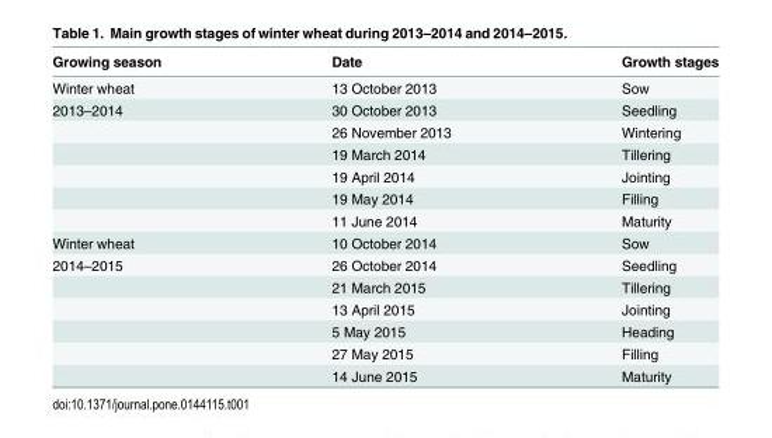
<table><thead><tr><td>Growing season</td><td>Date</td><td>Growth stages</td></tr></thead><tbody><tr><td>Winter wheat</td><td>13 October 2013</td><td>Sow</td></tr><tr><td rowspan="6">2013–2014</td><td>30 October 2013</td><td>Seedling</td></tr><tr><td>26 November 2013</td><td>Wintering</td></tr><tr><td>19 March 2014</td><td>Tillering</td></tr><tr><td>19 April 2014</td><td>Jointing</td></tr><tr><td>19 May 2014</td><td>Filling</td></tr><tr><td>11 June 2014</td><td>Maturity</td></tr><tr><td>Winter wheat</td><td>10 October 2014</td><td>Sow</td></tr><tr><td rowspan="6">2014–2015</td><td>26 October 2014</td><td>Seedling</td></tr><tr><td>21 March 2015</td><td>Tillering</td></tr><tr><td>13 April 2015</td><td>Jointing</td></tr><tr><td>5 May 2015</td><td>Heading</td></tr><tr><td>27 May 2015</td><td>Filling</td></tr><tr><td>14 June 2015</td><td>Maturity</td></tr></tbody></table>